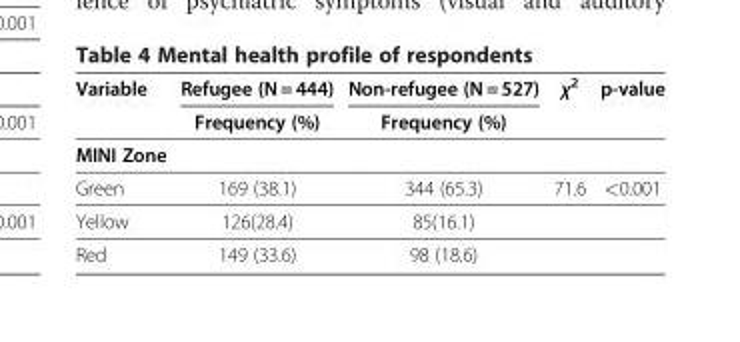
<table><thead><tr><td rowspan="2">Variable</td><td rowspan="2">Refugee (N = 444) Frequency (%)</td><td rowspan="2">Non-refugee (N = 527) Frequency (%)</td><td rowspan="2">χ<sup>2</sup></td><td rowspan="2">p-value</td></tr><tr></tr></thead><tbody><tr><td colspan="5">MINI Zone</td></tr><tr><td>Green</td><td>169 (38.1)</td><td>344 (65.3)</td><td>71.6</td><td>&lt;0.001</td></tr><tr><td>Yellow</td><td>126(28.4)</td><td>85(16.1)</td><td></td><td></td></tr><tr><td>Red</td><td>149 (33.6)</td><td>98 (18.6)</td><td></td><td></td></tr></tbody></table>